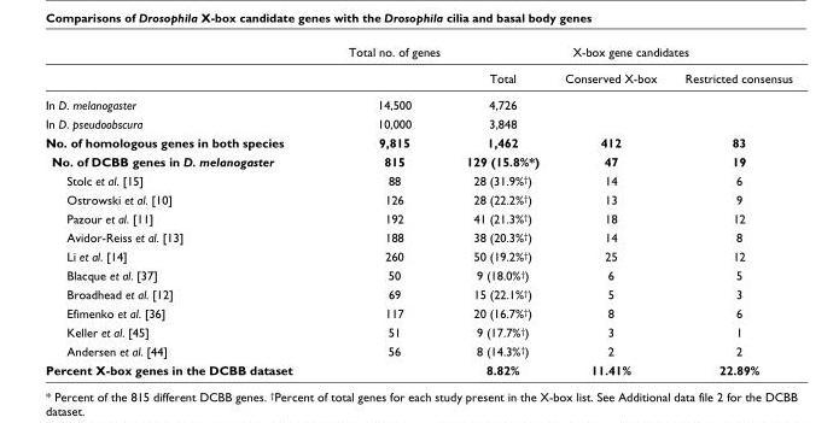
<table><thead><tr><td rowspan="2"></td><td rowspan="2">Total no. of genes</td><td colspan="3">X-box gene candidates</td></tr><tr><td>Total</td><td>Conserved X-box</td><td>Restricted consensus</td></tr></thead><tbody><tr><td>In D. melanogaster</td><td>14,500</td><td>4,726</td><td></td><td></td></tr><tr><td>In D. pseudoobscura</td><td>10,000</td><td>3,848</td><td></td><td></td></tr><tr><td>No. of homologous genes in both species</td><td>9,815</td><td>1,462</td><td>412</td><td>83</td></tr><tr><td>No. of DCBB genes in D. melanogaster</td><td>815</td><td>129 (15.8%*)</td><td>47</td><td>19</td></tr><tr><td>Stolc et al. [15]</td><td>88</td><td>28 (31.9%<sup>†</sup>)</td><td>14</td><td>6</td></tr><tr><td>Ostrowski et al. [10]</td><td>126</td><td>28 (22.2%<sup>†</sup>)</td><td>13</td><td>9</td></tr><tr><td>Pazour et al. [11]</td><td>192</td><td>41 (21.3%<sup>†</sup>)</td><td>18</td><td>12</td></tr><tr><td>Avidor-Reiss et al. [13]</td><td>188</td><td>38 (20.3%<sup>†</sup>)</td><td>14</td><td>8</td></tr><tr><td>Li et al. [14]</td><td>260</td><td>50 (19.2%<sup>†</sup>)</td><td>25</td><td>12</td></tr><tr><td>Blacque et al. [37]</td><td>50</td><td>9 (18.0%<sup>†</sup>)</td><td>6</td><td>5</td></tr><tr><td>Broadhead et al. [12]</td><td>69</td><td>15 (22.1%<sup>†</sup>)</td><td>5</td><td>3</td></tr><tr><td>Efimenko et al. [36]</td><td>117</td><td>20 (16.7%<sup>†</sup>)</td><td>8</td><td>6</td></tr><tr><td>Keller et al. [45]</td><td>51</td><td>9 (17.7%<sup>†</sup>)</td><td>3</td><td>1</td></tr><tr><td>Andersen et al. [44]</td><td>56</td><td>8 (14.3%<sup>†</sup>)</td><td>2</td><td>2</td></tr><tr><td>Percent X-box genes in the DCBB dataset</td><td></td><td>8.82%</td><td>11.41%</td><td>22.89%</td></tr></tbody></table>